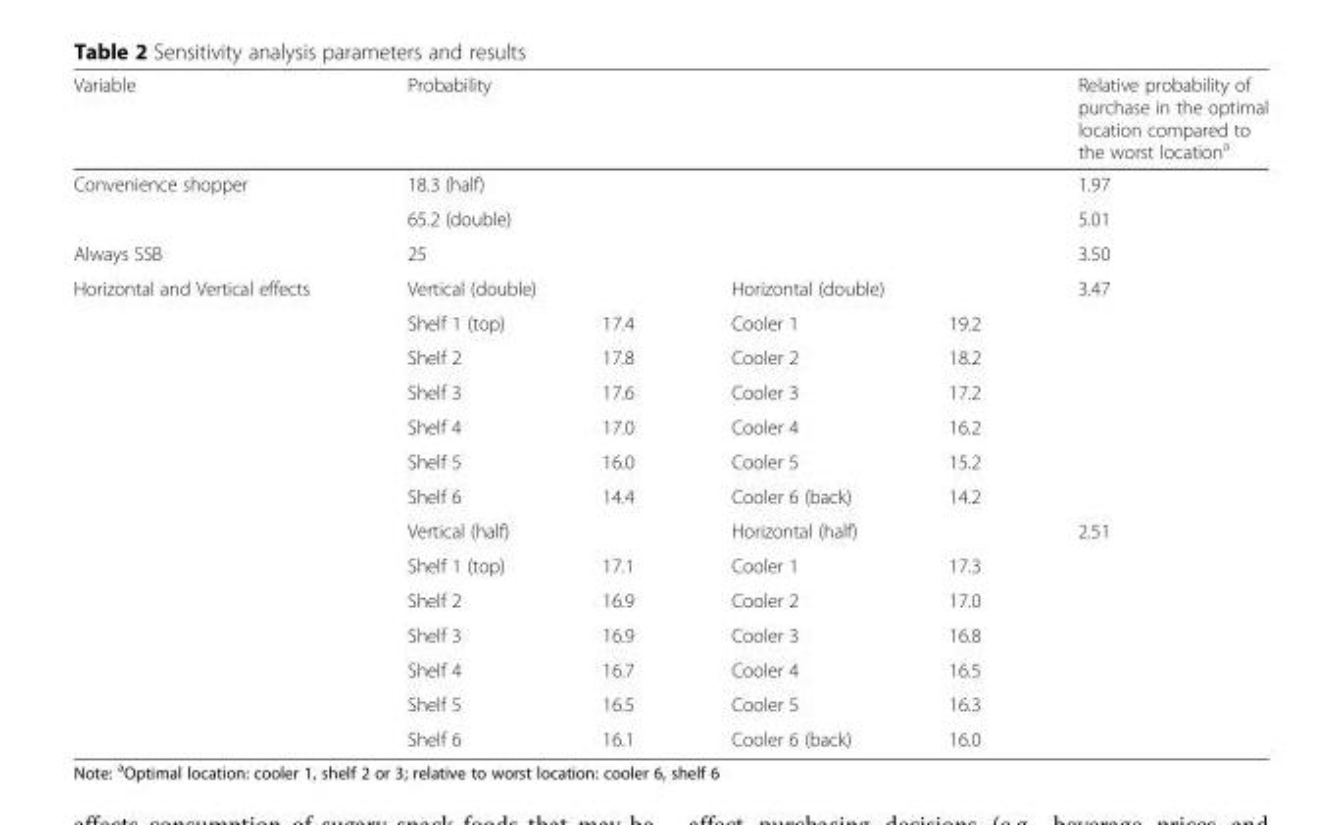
<table><thead><tr><td>Variable</td><td colspan="4">Probability</td><td>Relative probability of purchase in the optimal location compared to the worst location<sup>a</sup></td></tr></thead><tbody><tr><td rowspan="2">Convenience shopper</td><td colspan="4">18.3 (half)</td><td>1.97</td></tr><tr><td colspan="4">65.2 (double)</td><td>5.01</td></tr><tr><td>Always SSB</td><td colspan="4">25</td><td>3.50</td></tr><tr><td rowspan="14">Horizontal and Vertical effects</td><td colspan="2">Vertical (double)</td><td colspan="2">Horizontal (double)</td><td rowspan="7">3.47</td></tr><tr><td>Shelf 1 (top)</td><td>17.4</td><td>Cooler 1</td><td>19.2</td></tr><tr><td>Shelf 2</td><td>17.8</td><td>Cooler 2</td><td>18.2</td></tr><tr><td>Shelf 3</td><td>17.6</td><td>Cooler 3</td><td>17.2</td></tr><tr><td>Shelf 4</td><td>17.0</td><td>Cooler 4</td><td>16.2</td></tr><tr><td>Shelf 5</td><td>16.0</td><td>Cooler 5</td><td>15.2</td></tr><tr><td>Shelf 6</td><td>14.4</td><td>Cooler 6 (back)</td><td>14.2</td></tr><tr><td colspan="2">Vertical (half)</td><td colspan="2">Horizontal (half)</td><td rowspan="7">2.51</td></tr><tr><td>Shelf 1 (top)</td><td>17.1</td><td>Cooler 1</td><td>17.3</td></tr><tr><td>Shelf 2</td><td>16.9</td><td>Cooler 2</td><td>17.0</td></tr><tr><td>Shelf 3</td><td>16.9</td><td>Cooler 3</td><td>16.8</td></tr><tr><td>Shelf 4</td><td>16.7</td><td>Cooler 4</td><td>16.5</td></tr><tr><td>Shelf 5</td><td>16.5</td><td>Cooler 5</td><td>16.3</td></tr><tr><td>Shelf 6</td><td>16.1</td><td>Cooler 6 (back)</td><td>16.0</td></tr></tbody></table>